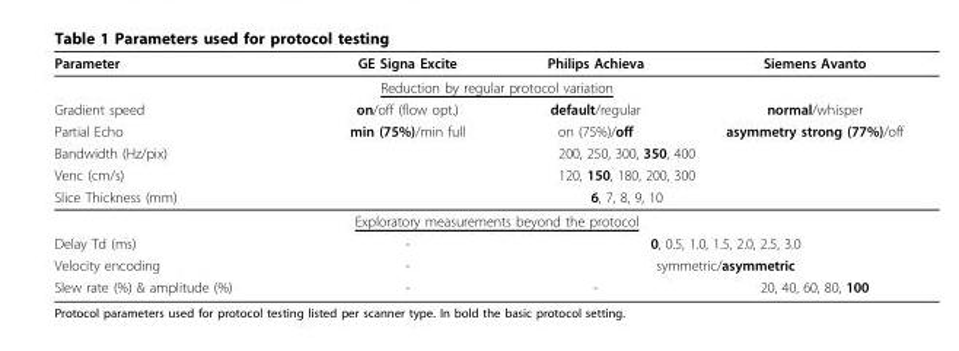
<table><thead><tr><td>Parameter</td><td>GE Signa Excite</td><td>Philips Achieva</td><td>Siemens Avanto</td></tr></thead><tbody><tr><td colspan="4">Reduction by regular protocol variation</td></tr><tr><td>Gradient speed</td><td>on/off (flow opt.)</td><td>default/regular</td><td>normal/whisper</td></tr><tr><td>Partial Echo</td><td>min (75%)/min full</td><td>on (75%)/off</td><td>asymmetry strong (77%)/off</td></tr><tr><td>Bandwidth (Hz/pix)</td><td colspan="3">200, 250, 300, 350, 400</td></tr><tr><td>Venc (cm/s)</td><td colspan="3">120, 150, 180, 200, 300</td></tr><tr><td>Slice Thickness (mm)</td><td colspan="3">6, 7, 8, 9, 10</td></tr><tr><td colspan="4">Exploratory measurements beyond the protocol</td></tr><tr><td>Delay Td (ms)</td><td>-</td><td colspan="2">0, 0.5, 1.0, 1.5, 2.0, 2.5, 3.0</td></tr><tr><td>Velocity encoding</td><td>-</td><td colspan="2">symmetric/asymmetric</td></tr><tr><td>Slew rate (%) &amp; amplitude (%)</td><td>-</td><td>-</td><td>20, 40, 60, 80, 100</td></tr></tbody></table>